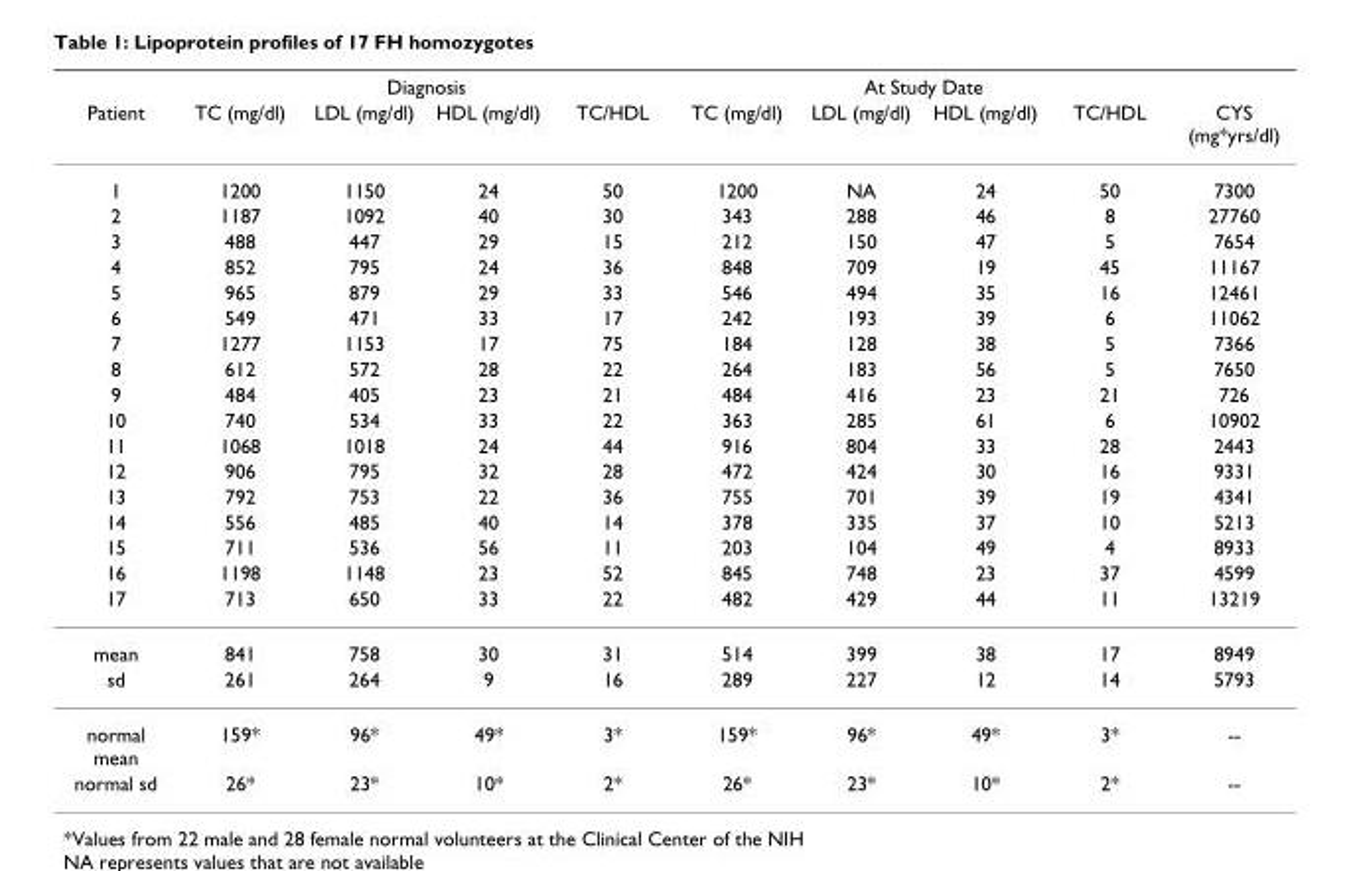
<table><thead><tr><td rowspan="2">Patient</td><td colspan="4">Diagnosis</td><td colspan="4">At Study Date</td><td rowspan="2">CYS (mg*yrs/dl)</td></tr><tr><td>TC (mg/dl)</td><td>LDL (mg/dl)</td><td>HDL (mg/dl)</td><td>TC/HDL</td><td>TC (mg/dl)</td><td>LDL (mg/dl)</td><td>HDL (mg/dl)</td><td>TC/HDL</td></tr></thead><tbody><tr><td>1</td><td>1200</td><td>1150</td><td>24</td><td>50</td><td>1200</td><td>NA</td><td>24</td><td>50</td><td>7300</td></tr><tr><td>2</td><td>1187</td><td>1092</td><td>40</td><td>30</td><td>343</td><td>288</td><td>46</td><td>8</td><td>27760</td></tr><tr><td>3</td><td>488</td><td>447</td><td>29</td><td>15</td><td>212</td><td>150</td><td>47</td><td>5</td><td>7654</td></tr><tr><td>4</td><td>852</td><td>795</td><td>24</td><td>36</td><td>848</td><td>709</td><td>19</td><td>45</td><td>11167</td></tr><tr><td>5</td><td>965</td><td>879</td><td>29</td><td>33</td><td>546</td><td>494</td><td>35</td><td>16</td><td>12461</td></tr><tr><td>6</td><td>549</td><td>471</td><td>33</td><td>17</td><td>242</td><td>193</td><td>39</td><td>6</td><td>11062</td></tr><tr><td>7</td><td>1277</td><td>1153</td><td>17</td><td>75</td><td>184</td><td>128</td><td>38</td><td>5</td><td>7366</td></tr><tr><td>8</td><td>612</td><td>572</td><td>28</td><td>22</td><td>264</td><td>183</td><td>56</td><td>5</td><td>7650</td></tr><tr><td>9</td><td>484</td><td>405</td><td>23</td><td>21</td><td>484</td><td>416</td><td>23</td><td>21</td><td>726</td></tr><tr><td>10</td><td>740</td><td>534</td><td>33</td><td>22</td><td>363</td><td>285</td><td>61</td><td>6</td><td>10902</td></tr><tr><td>11</td><td>1068</td><td>1018</td><td>24</td><td>44</td><td>916</td><td>804</td><td>33</td><td>28</td><td>2443</td></tr><tr><td>12</td><td>906</td><td>795</td><td>32</td><td>28</td><td>472</td><td>424</td><td>30</td><td>16</td><td>9331</td></tr><tr><td>13</td><td>792</td><td>753</td><td>22</td><td>36</td><td>755</td><td>701</td><td>39</td><td>19</td><td>4341</td></tr><tr><td>14</td><td>556</td><td>485</td><td>40</td><td>14</td><td>378</td><td>335</td><td>37</td><td>10</td><td>5213</td></tr><tr><td>15</td><td>711</td><td>536</td><td>56</td><td>11</td><td>203</td><td>104</td><td>49</td><td>4</td><td>8933</td></tr><tr><td>16</td><td>1198</td><td>1148</td><td>23</td><td>52</td><td>845</td><td>748</td><td>23</td><td>37</td><td>4599</td></tr><tr><td>17</td><td>713</td><td>650</td><td>33</td><td>22</td><td>482</td><td>429</td><td>44</td><td>11</td><td>13219</td></tr><tr><td>mean</td><td>841</td><td>758</td><td>30</td><td>31</td><td>514</td><td>399</td><td>38</td><td>17</td><td>8949</td></tr><tr><td>sd</td><td>261</td><td>264</td><td>9</td><td>16</td><td>289</td><td>227</td><td>12</td><td>14</td><td>5793</td></tr><tr><td>normal mean</td><td>159*</td><td>96*</td><td>49*</td><td>3*</td><td>159*</td><td>96*</td><td>49*</td><td>3*</td><td>--</td></tr><tr><td>normal sd</td><td>26*</td><td>23*</td><td>10*</td><td>2*</td><td>26*</td><td>23*</td><td>10*</td><td>2*</td><td>--</td></tr></tbody></table>